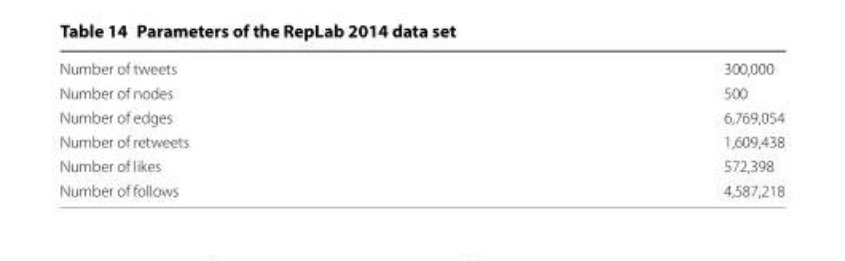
<table><tbody><tr><td>Number of tweets</td><td>300,000</td></tr><tr><td>Number of nodes</td><td>500</td></tr><tr><td>Number of edges</td><td>6,769,054</td></tr><tr><td>Number of retweets</td><td>1,609,438</td></tr><tr><td>Number of likes</td><td>572,398</td></tr><tr><td>Number of follows</td><td>4,587,218</td></tr></tbody></table>